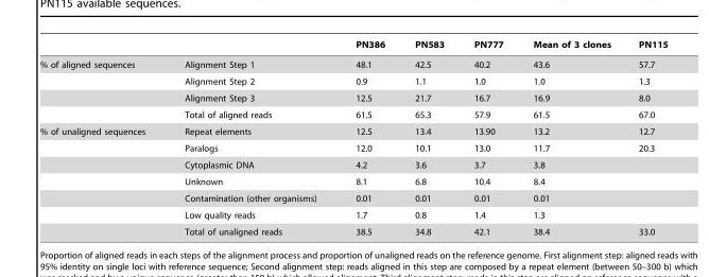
<table><thead><tr><td></td><td></td><td>PN386</td><td>PN583</td><td>PN777</td><td>Mean of 3 clones</td><td>PN115</td></tr></thead><tbody><tr><td rowspan="4">% of aligned sequences</td><td>Alignment Step 1</td><td>48.1</td><td>42.5</td><td>40.2</td><td>43.6</td><td>57.7</td></tr><tr><td>Alignment Step 2</td><td>0.9</td><td>1.1</td><td>1.0</td><td>1.0</td><td>1.3</td></tr><tr><td>Alignment Step 3</td><td>12.5</td><td>21.7</td><td>16.7</td><td>16.9</td><td>8.0</td></tr><tr><td>Total of aligned reads</td><td>61.5</td><td>65.3</td><td>57.9</td><td>61.5</td><td>67.0</td></tr><tr><td rowspan="7">% of unaligned sequences</td><td>Repeat elements</td><td>12.5</td><td>13.4</td><td>13.90</td><td>13.2</td><td>12.7</td></tr><tr><td>Paralogs</td><td>12.0</td><td>10.1</td><td>13.0</td><td>11.7</td><td>20.3</td></tr><tr><td>Cytoplasmic DNA</td><td>4.2</td><td>3.6</td><td>3.7</td><td>3.8</td><td></td></tr><tr><td>Unknown</td><td>8.1</td><td>6.8</td><td>10.4</td><td>8.4</td><td></td></tr><tr><td>Contamination (other organisms)</td><td>0.01</td><td>0.01</td><td>0.01</td><td>0.01</td><td></td></tr><tr><td>Low quality reads</td><td>1.7</td><td>0.8</td><td>1.4</td><td>1.3</td><td></td></tr><tr><td>Total of unaligned reads</td><td>38.5</td><td>34.8</td><td>42.1</td><td>38.4</td><td>33.0</td></tr></tbody></table>